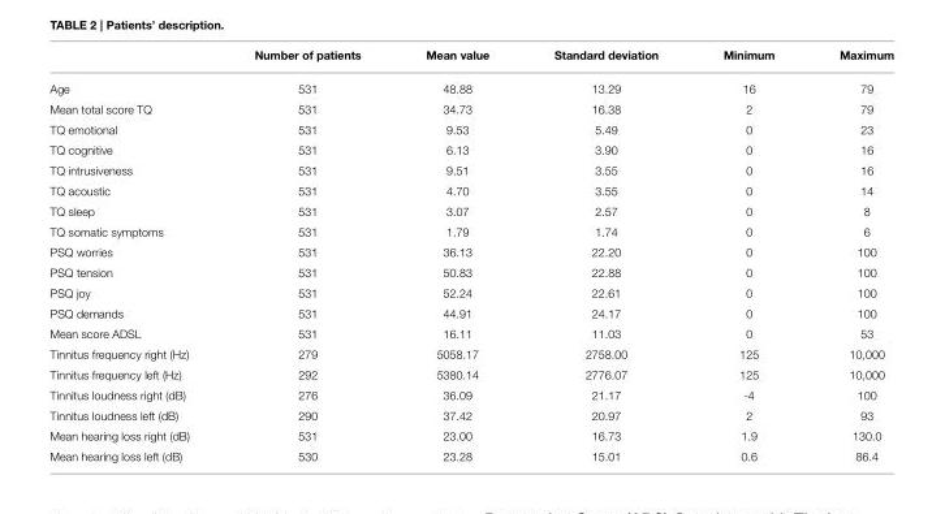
<table><thead><tr><td></td><td>Number of patients</td><td>Mean value</td><td>Standard deviation</td><td>Minimum</td><td>Maximum</td></tr></thead><tbody><tr><td>Age</td><td>531</td><td>48.88</td><td>13.29</td><td>16</td><td>79</td></tr><tr><td>Mean total score TQ</td><td>531</td><td>34.73</td><td>16.38</td><td>2</td><td>79</td></tr><tr><td>TQ emotional</td><td>531</td><td>9.53</td><td>5.49</td><td>0</td><td>23</td></tr><tr><td>TQ cognitive</td><td>531</td><td>6.13</td><td>3.90</td><td>0</td><td>16</td></tr><tr><td>TQ intrusiveness</td><td>531</td><td>9.51</td><td>3.55</td><td>0</td><td>16</td></tr><tr><td>TQ acoustic</td><td>531</td><td>4.70</td><td>3.55</td><td>0</td><td>14</td></tr><tr><td>TQ sleep</td><td>531</td><td>3.07</td><td>2.57</td><td>0</td><td>8</td></tr><tr><td>TQ somatic symptoms</td><td>531</td><td>1.79</td><td>1.74</td><td>0</td><td>6</td></tr><tr><td>PSQ worries</td><td>531</td><td>36.13</td><td>22.20</td><td>0</td><td>100</td></tr><tr><td>PSQ tension</td><td>531</td><td>50.83</td><td>22.88</td><td>0</td><td>100</td></tr><tr><td>PSQ joy</td><td>531</td><td>52.24</td><td>22.61</td><td>0</td><td>100</td></tr><tr><td>PSQ demands</td><td>531</td><td>44.91</td><td>24.17</td><td>0</td><td>100</td></tr><tr><td>Mean score ADSL</td><td>531</td><td>16.11</td><td>11.03</td><td>0</td><td>53</td></tr><tr><td>Tinnitus frequency right (Hz)</td><td>279</td><td>5058.17</td><td>2758.00</td><td>125</td><td>10,000</td></tr><tr><td>Tinnitus frequency left (Hz)</td><td>292</td><td>5380.14</td><td>2776.07</td><td>125</td><td>10,000</td></tr><tr><td>Tinnitus loudness right (dB)</td><td>276</td><td>36.09</td><td>21.17</td><td>-4</td><td>100</td></tr><tr><td>Tinnitus loudness left (dB)</td><td>290</td><td>37.42</td><td>20.97</td><td>2</td><td>93</td></tr><tr><td>Mean hearing loss right (dB)</td><td>531</td><td>23.00</td><td>16.73</td><td>1.9</td><td>130.0</td></tr><tr><td>Mean hearing loss left (dB)</td><td>530</td><td>23.28</td><td>15.01</td><td>0.6</td><td>86.4</td></tr></tbody></table>